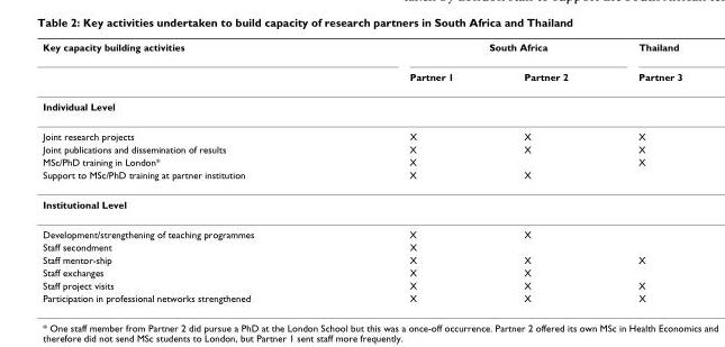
<table><thead><tr><td rowspan="2">Key capacity building activities</td><td colspan="2">South Africa</td><td rowspan="2">Thailand Partner 3</td></tr><tr><td>Partner 1</td><td>Partner 2</td></tr></thead><tbody><tr><td colspan="4">Individual Level</td></tr><tr><td>Joint research projects</td><td>X</td><td>X</td><td>X</td></tr><tr><td>Joint publications and dissemination of results</td><td>X</td><td>X</td><td>X</td></tr><tr><td>MSc/PhD training in London*</td><td>X</td><td></td><td>X</td></tr><tr><td>Support to MSc/PhD training at partner institution</td><td>X</td><td>X</td><td></td></tr><tr><td colspan="4">Institutional Level</td></tr><tr><td>Development/strengthening of teaching programmes</td><td>X</td><td>X</td><td></td></tr><tr><td>Staff secondment</td><td>X</td><td></td><td></td></tr><tr><td>Staff mentor-ship</td><td>X</td><td>X</td><td>X</td></tr><tr><td>Staff exchanges</td><td>X</td><td>X</td><td></td></tr><tr><td>Staff project visits</td><td>X</td><td>X</td><td>X</td></tr><tr><td>Participation in professional networks strengthened</td><td>X</td><td>X</td><td>X</td></tr></tbody></table>